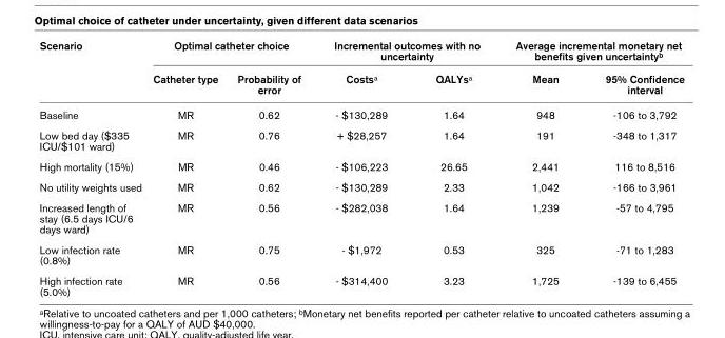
<table><thead><tr><td rowspan="2">Scenario</td><td colspan="2">Optimal catheter choice</td><td colspan="2">Incremental outcomes with no uncertainty</td><td colspan="2">Average incremental monetary net benefits given uncertainty<sup>b</sup></td></tr><tr><td>Catheter type</td><td>Probability of error</td><td>Costs<sup>a</sup></td><td>QALYs<sup>a</sup></td><td>Mean</td><td>95% Confidence interval</td></tr></thead><tbody><tr><td>Baseline</td><td>MR</td><td>0.62</td><td>- $130,289</td><td>1.64</td><td>948</td><td>-106 to 3,792</td></tr><tr><td>Low bed day ($335 ICU/$101 ward)</td><td>MR</td><td>0.76</td><td>+ $28,257</td><td>1.64</td><td>191</td><td>-348 to 1,317</td></tr><tr><td>High mortality (15%)</td><td>MR</td><td>0.46</td><td>- $106,223</td><td>26.65</td><td>2,441</td><td>116 to 8,516</td></tr><tr><td>No utility weights used</td><td>MR</td><td>0.62</td><td>- $130,289</td><td>2.33</td><td>1,042</td><td>-166 to 3,961</td></tr><tr><td>Increased length of stay (6.5 days ICU/6 days ward)</td><td>MR</td><td>0.56</td><td>- $282,038</td><td>1.64</td><td>1,239</td><td>-57 to 4,795</td></tr><tr><td>Low infection rate (0.8%)</td><td>MR</td><td>0.75</td><td>- $1,972</td><td>0.53</td><td>325</td><td>-71 to 1,283</td></tr><tr><td>High infection rate (5.0%)</td><td>MR</td><td>0.56</td><td>- $314,400</td><td>3.23</td><td>1,725</td><td>-139 to 6,455</td></tr></tbody></table>